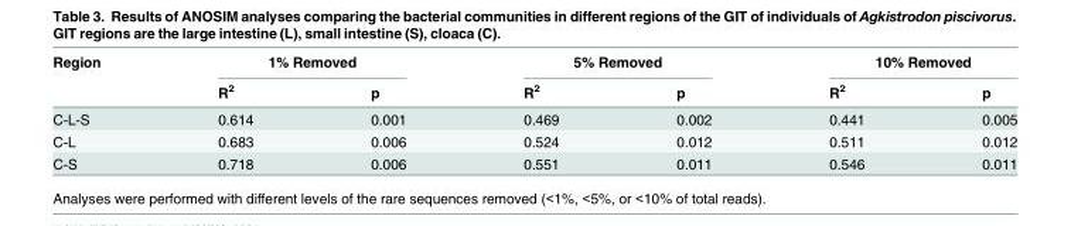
<table><thead><tr><td rowspan="2">Region</td><td colspan="2">1% Removed</td><td colspan="2">5% Removed</td><td colspan="2">10% Removed</td></tr><tr><td>R<sup>2</sup></td><td>p</td><td>R<sup>2</sup></td><td>p</td><td>R<sup>2</sup></td><td>p</td></tr></thead><tbody><tr><td>C-L-S</td><td>0.614</td><td>0.001</td><td>0.469</td><td>0.002</td><td>0.441</td><td>0.005</td></tr><tr><td>C-L</td><td>0.683</td><td>0.006</td><td>0.524</td><td>0.012</td><td>0.511</td><td>0.012</td></tr><tr><td>C-S</td><td>0.718</td><td>0.006</td><td>0.551</td><td>0.011</td><td>0.546</td><td>0.011</td></tr></tbody></table>